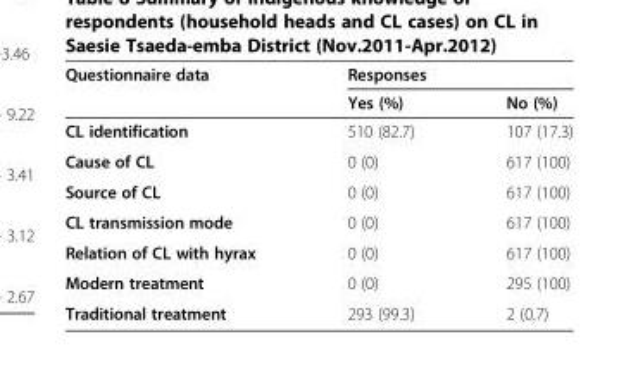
<table><thead><tr><td rowspan="2">Questionnaire data</td><td colspan="2">Responses</td></tr><tr><td>Yes (%)</td><td>No (%)</td></tr></thead><tbody><tr><td>CL identification</td><td>510 (82.7)</td><td>107 (17.3)</td></tr><tr><td>Cause of CL</td><td>0 (0)</td><td>617 (100)</td></tr><tr><td>Source of CL</td><td>0 (0)</td><td>617 (100)</td></tr><tr><td>CL transmission mode</td><td>0 (0)</td><td>617 (100)</td></tr><tr><td>Relation of CL with hyrax</td><td>0 (0)</td><td>617 (100)</td></tr><tr><td>Modern treatment</td><td>0 (0)</td><td>295 (100)</td></tr><tr><td>Traditional treatment</td><td>293 (99.3)</td><td>2 (0.7)</td></tr></tbody></table>